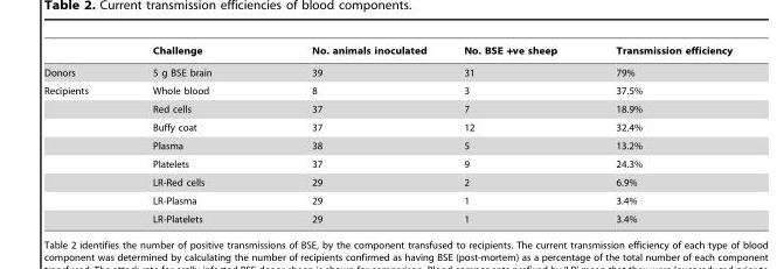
<table><thead><tr><td></td><td>Challenge</td><td>No. animals inoculated</td><td>No. BSE +ve sheep</td><td>Transmission efficiency</td></tr></thead><tbody><tr><td>Donors</td><td>5 g BSE brain</td><td>39</td><td>31</td><td>79%</td></tr><tr><td rowspan="8">Recipients</td><td>Whole blood</td><td>8</td><td>3</td><td>37.5%</td></tr><tr><td>Red cells</td><td>37</td><td>7</td><td>18.9%</td></tr><tr><td>Buffy coat</td><td>37</td><td>12</td><td>32.4%</td></tr><tr><td>Plasma</td><td>38</td><td>5</td><td>13.2%</td></tr><tr><td>Platelets</td><td>37</td><td>9</td><td>24.3%</td></tr><tr><td>LR-Red cells</td><td>29</td><td>2</td><td>6.9%</td></tr><tr><td>LR-Plasma</td><td>29</td><td>1</td><td>3.4%</td></tr><tr><td>LR-Platelets</td><td>29</td><td>1</td><td>3.4%</td></tr></tbody></table>